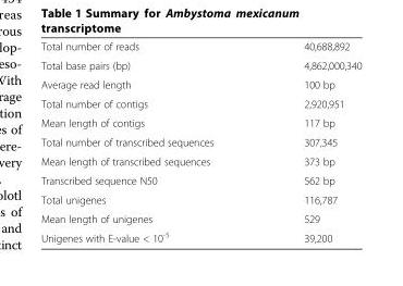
<table><tbody><tr><td>Total number of reads</td><td>40,688,892</td></tr><tr><td>Total base pairs (bp)</td><td>4,862,000,340</td></tr><tr><td>Average read length</td><td>100 bp</td></tr><tr><td>Total number of contigs</td><td>2,920,951</td></tr><tr><td>Mean length of contigs</td><td>117 bp</td></tr><tr><td>Total number of transcribed sequences</td><td>307,345</td></tr><tr><td>Mean length of transcribed sequences</td><td>373 bp</td></tr><tr><td>Transcribed sequence N50</td><td>562 bp</td></tr><tr><td>Total unigenes</td><td>116,787</td></tr><tr><td>Mean length of unigenes</td><td>529</td></tr><tr><td>Unigenes with E-value &lt; 10<sup>-5</sup></td><td>39,200</td></tr></tbody></table>